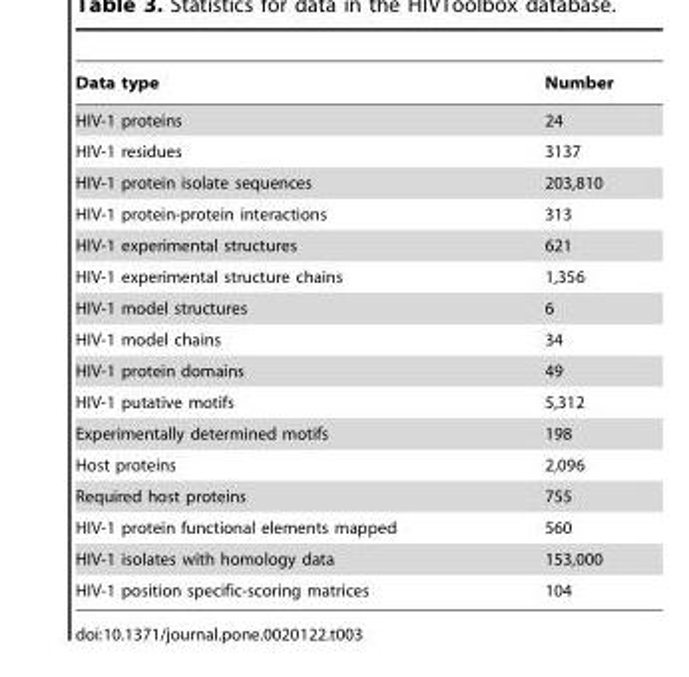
<table><thead><tr><td>Data type</td><td>Number</td></tr></thead><tbody><tr><td>HIV-1 proteins</td><td>24</td></tr><tr><td>HIV-1 residues</td><td>3137</td></tr><tr><td>HIV-1 protein isolate sequences</td><td>203,810</td></tr><tr><td>HIV-1 protein-protein interactions</td><td>313</td></tr><tr><td>HIV-1 experimental structures</td><td>621</td></tr><tr><td>HIV-1 experimental structure chains</td><td>1,356</td></tr><tr><td>HIV-1 model structures</td><td>6</td></tr><tr><td>HIV-1 model chains</td><td>34</td></tr><tr><td>HIV-1 protein domains</td><td>49</td></tr><tr><td>HIV-1 putative motifs</td><td>5,312</td></tr><tr><td>Experimentally determined motifs</td><td>198</td></tr><tr><td>Host proteins</td><td>2,096</td></tr><tr><td>Required host proteins</td><td>755</td></tr><tr><td>HIV-1 protein functional elements mapped</td><td>560</td></tr><tr><td>HIV-1 isolates with homology data</td><td>153,000</td></tr><tr><td>HIV-1 position specific-scoring matrices</td><td>104</td></tr></tbody></table>